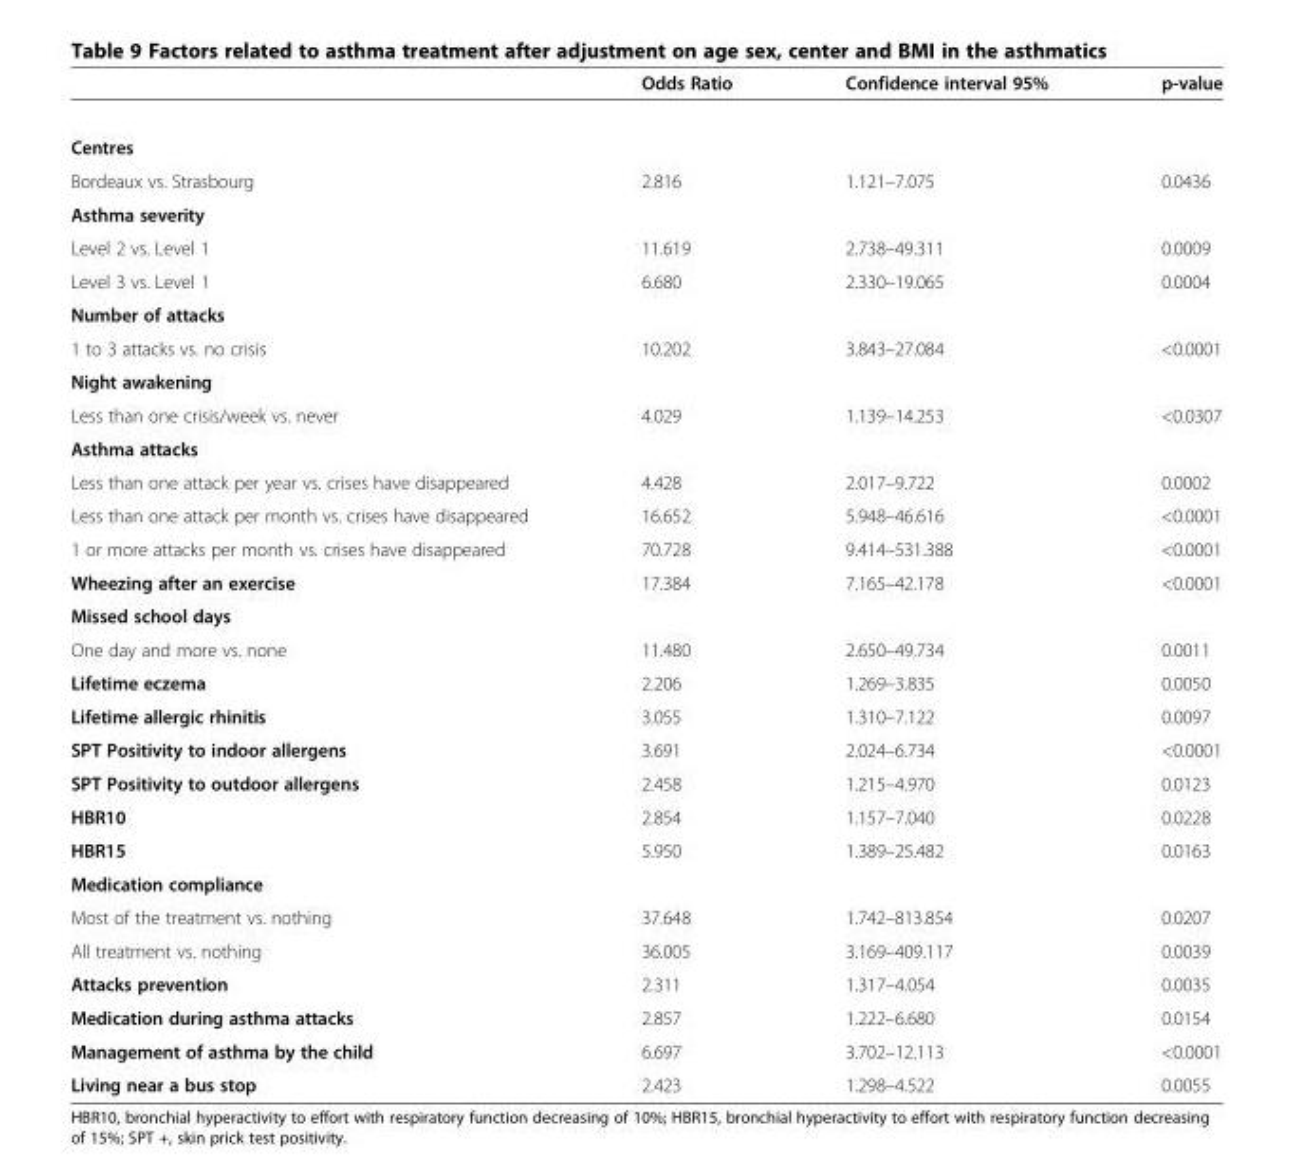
<table><thead><tr><td></td><td>Odds Ratio</td><td>Confidence interval 95%</td><td>p-value</td></tr></thead><tbody><tr><td colspan="4">Centres</td></tr><tr><td>Bordeaux vs. Strasbourg</td><td>2.816</td><td>1.121–7.075</td><td>0.0436</td></tr><tr><td colspan="4">Asthma severity</td></tr><tr><td>Level 2 vs. Level 1</td><td>11.619</td><td>2.738–49.311</td><td>0.0009</td></tr><tr><td>Level 3 vs. Level 1</td><td>6.680</td><td>2.330–19.065</td><td>0.0004</td></tr><tr><td colspan="4">Number of attacks</td></tr><tr><td>1 to 3 attacks vs. no crisis</td><td>10.202</td><td>3.843–27.084</td><td>&lt;0.0001</td></tr><tr><td colspan="4">Night awakening</td></tr><tr><td>Less than one crisis/week vs. never</td><td>4.029</td><td>1.139–14.253</td><td>&lt;0.0307</td></tr><tr><td colspan="4">Asthma attacks</td></tr><tr><td>Less than one attack per year vs. crises have disappeared</td><td>4.428</td><td>2.017–9.722</td><td>0.0002</td></tr><tr><td>Less than one attack per month vs. crises have disappeared</td><td>16.652</td><td>5.948–46.616</td><td>&lt;0.0001</td></tr><tr><td>1 or more attacks per month vs. crises have disappeared</td><td>70.728</td><td>9.414–531.388</td><td>&lt;0.0001</td></tr><tr><td>Wheezing after an exercise</td><td>17.384</td><td>7.165–42.178</td><td>&lt;0.0001</td></tr><tr><td colspan="4">Missed school days</td></tr><tr><td>One day and more vs. none</td><td>11.480</td><td>2.650–49.734</td><td>0.0011</td></tr><tr><td>Lifetime eczema</td><td>2.206</td><td>1.269–3.835</td><td>0.0050</td></tr><tr><td>Lifetime allergic rhinitis</td><td>3.055</td><td>1.310–7.122</td><td>0.0097</td></tr><tr><td>SPT Positivity to indoor allergens</td><td>3.691</td><td>2.024–6.734</td><td>&lt;0.0001</td></tr><tr><td>SPT Positivity to outdoor allergens</td><td>2.458</td><td>1.215–4.970</td><td>0.0123</td></tr><tr><td>HBR10</td><td>2.854</td><td>1.157–7.040</td><td>0.0228</td></tr><tr><td>HBR15</td><td>5.950</td><td>1.389–25.482</td><td>0.0163</td></tr><tr><td colspan="4">Medication compliance</td></tr><tr><td>Most of the treatment vs. nothing</td><td>37.648</td><td>1.742–813.854</td><td>0.0207</td></tr><tr><td>All treatment vs. nothing</td><td>36.005</td><td>3.169–409.117</td><td>0.0039</td></tr><tr><td>Attacks prevention</td><td>2.311</td><td>1.317–4.054</td><td>0.0035</td></tr><tr><td>Medication during asthma attacks</td><td>2.857</td><td>1.222–6.680</td><td>0.0154</td></tr><tr><td>Management of asthma by the child</td><td>6.697</td><td>3.702–12.113</td><td>&lt;0.0001</td></tr><tr><td>Living near a bus stop</td><td>2.423</td><td>1.298–4.522</td><td>0.0055</td></tr></tbody></table>